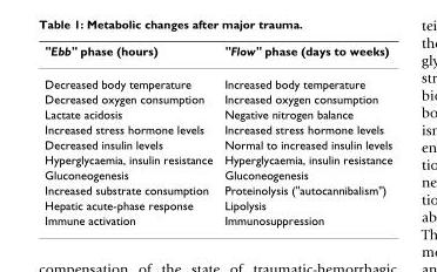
<table><thead><tr><td>&quot;Ebb&quot; phase (hours)</td><td>&quot;Flow&quot; phase (days to weeks)</td></tr></thead><tbody><tr><td>Decreased body temperature</td><td>Increased body temperature</td></tr><tr><td>Decreased oxygen consumption</td><td>Increased oxygen consumption</td></tr><tr><td>Lactate acidosis</td><td>Negative nitrogen balance</td></tr><tr><td>Increased stress hormone levels</td><td>Increased stress hormone levels</td></tr><tr><td>Decreased insulin levels</td><td>Normal to increased insulin levels</td></tr><tr><td>Hyperglycaemia, insulin resistance</td><td>Hyperglycaemia, insulin resistance</td></tr><tr><td>Gluconeogenesis</td><td>Gluconeogenesis</td></tr><tr><td>Increased substrate consumption</td><td>Proteinolysis (&quot;autocannibalism&quot;)</td></tr><tr><td>Hepatic acute-phase response</td><td>Lipolysis</td></tr><tr><td>Immune activation</td><td>Immunosuppression</td></tr></tbody></table>